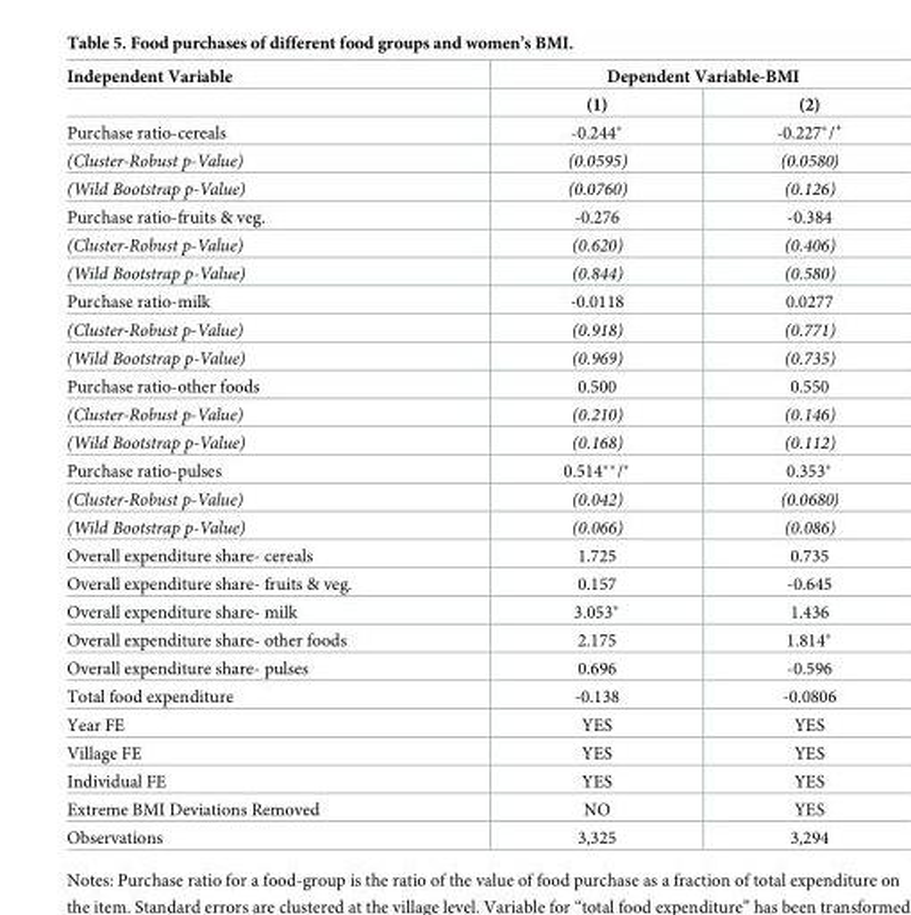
<table><thead><tr><td rowspan="2">Independent Variable</td><td colspan="2">Dependent Variable-BMI</td></tr><tr><td>(1)</td><td>(2)</td></tr></thead><tbody><tr><td>Purchase ratio-cereals</td><td>-0.244*</td><td>-0.227*/<sup>+</sup></td></tr><tr><td>(Cluster-Robust p-Value)</td><td>(0.0595)</td><td>(0.0580)</td></tr><tr><td>(Wild Bootstrap p-Value)</td><td>(0.0760)</td><td>(0.126)</td></tr><tr><td>Purchase ratio-fruits &amp; veg.</td><td>-0.276</td><td>-0.384</td></tr><tr><td>(Cluster-Robust p-Value)</td><td>(0.620)</td><td>(0.406)</td></tr><tr><td>(Wild Bootstrap p-Value)</td><td>(0.844)</td><td>(0.580)</td></tr><tr><td>Purchase ratio-milk</td><td>-0.0118</td><td>0.0277</td></tr><tr><td>(Cluster-Robust p-Value)</td><td>(0.918)</td><td>(0.771)</td></tr><tr><td>(Wild Bootstrap p-Value)</td><td>(0.969)</td><td>(0.735)</td></tr><tr><td>Purchase ratio-other foods</td><td>0.500</td><td>0.550</td></tr><tr><td>(Cluster-Robust p-Value)</td><td>(0.210)</td><td>(0.146)</td></tr><tr><td>(Wild Bootstrap p-Value)</td><td>(0.168)</td><td>(0.112)</td></tr><tr><td>Purchase ratio-pulses</td><td>0.514**/*</td><td>0.353*</td></tr><tr><td>(Cluster-Robust p-Value)</td><td>(0.042)</td><td>(0.0680)</td></tr><tr><td>(Wild Bootstrap p-Value)</td><td>(0.066)</td><td>(0.086)</td></tr><tr><td>Overall expenditure share- cereals</td><td>1.725</td><td>0.735</td></tr><tr><td>Overall expenditure share- fruits &amp; veg.</td><td>0.157</td><td>-0.645</td></tr><tr><td>Overall expenditure share- milk</td><td>3.053*</td><td>1.436</td></tr><tr><td>Overall expenditure share- other foods</td><td>2.175</td><td>1.814*</td></tr><tr><td>Overall expenditure share- pulses</td><td>0.696</td><td>-0.596</td></tr><tr><td>Total food expenditure</td><td>-0.138</td><td>-0.0806</td></tr><tr><td>Year FE</td><td>YES</td><td>YES</td></tr><tr><td>Village FE</td><td>YES</td><td>YES</td></tr><tr><td>Individual FE</td><td>YES</td><td>YES</td></tr><tr><td>Extreme BMI Deviations Removed</td><td>NO</td><td>YES</td></tr><tr><td>Observations</td><td>3,325</td><td>3,294</td></tr></tbody></table>